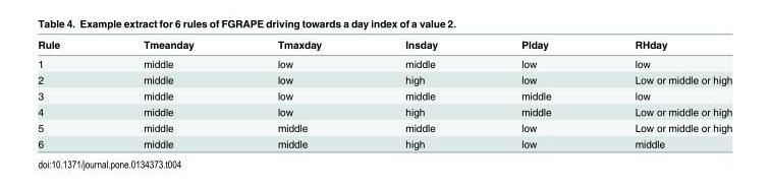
<table><thead><tr><td>Rule</td><td>Tmeanday</td><td>Tmaxday</td><td>Insday</td><td>Plday</td><td>RHday</td></tr></thead><tbody><tr><td>1</td><td>middle</td><td>low</td><td>middle</td><td>low</td><td>low</td></tr><tr><td>2</td><td>middle</td><td>low</td><td>high</td><td>low</td><td>Low or middle or high</td></tr><tr><td>3</td><td>middle</td><td>low</td><td>middle</td><td>middle</td><td>low</td></tr><tr><td>4</td><td>middle</td><td>low</td><td>high</td><td>middle</td><td>Low or middle or high</td></tr><tr><td>5</td><td>middle</td><td>middle</td><td>middle</td><td>low</td><td>Low or middle or high</td></tr><tr><td>6</td><td>middle</td><td>middle</td><td>high</td><td>low</td><td>middle</td></tr></tbody></table>